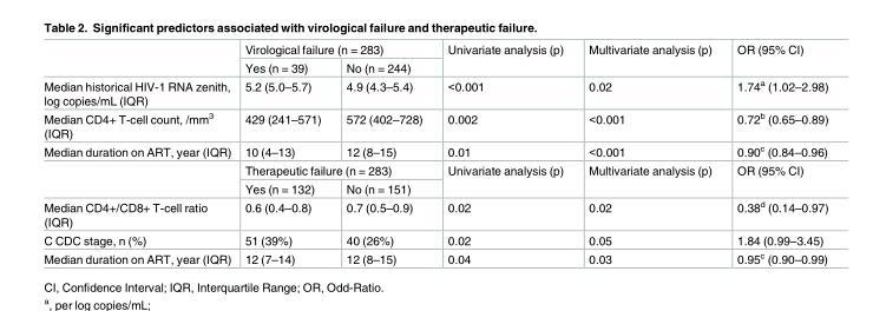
<table><thead><tr><td rowspan="2"></td><td colspan="2">Virological failure (n = 283)</td><td rowspan="2">Univariate analysis (p)</td><td rowspan="2">Multivariate analysis (p)</td><td rowspan="2">OR (95% CI)</td></tr><tr><td>Yes (n = 39)</td><td>No (n = 244)</td></tr></thead><tbody><tr><td>Median historical HIV-1 RNA zenith, log copies/mL (IQR)</td><td>5.2 (5.0–5.7)</td><td>4.9 (4.3–5.4)</td><td>&lt;0.001</td><td>0.02</td><td>1.74<sup>a</sup> (1.02–2.98)</td></tr><tr><td>Median CD4+ T-cell count, /mm<sup>3</sup> (IQR)</td><td>429 (241–571)</td><td>572 (402–728)</td><td>0.002</td><td>&lt;0.001</td><td>0.72<sup>b</sup> (0.65–0.89)</td></tr><tr><td rowspan="3">Median duration on ART, year (IQR)</td><td>10 (4–13)</td><td>12 (8–15)</td><td>0.01</td><td>&lt;0.001</td><td>0.90<sup>c</sup> (0.84–0.96)</td></tr><tr><td colspan="2">Therapeutic failure (n = 283)</td><td rowspan="2">Univariate analysis (p)</td><td rowspan="2">Multivariate analysis (p)</td><td rowspan="2">OR (95% CI)</td></tr><tr><td>Yes (n = 132)</td><td>No (n = 151)</td></tr><tr><td>Median CD4+/CD8+ T-cell ratio (IQR)</td><td>0.6 (0.4–0.8)</td><td>0.7 (0.5–0.9)</td><td>0.02</td><td>0.02</td><td>0.38<sup>d</sup> (0.14–0.97)</td></tr><tr><td>C CDC stage, n (%)</td><td>51 (39%)</td><td>40 (26%)</td><td>0.02</td><td>0.05</td><td>1.84 (0.99–3.45)</td></tr><tr><td>Median duration on ART, year (IQR)</td><td>12 (7–14)</td><td>12 (8–15)</td><td>0.04</td><td>0.03</td><td>0.95<sup>c</sup> (0.90–0.99)</td></tr></tbody></table>